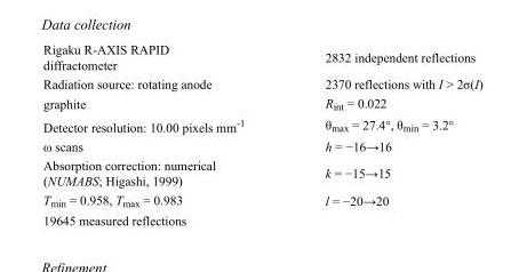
<table><tbody><tr><td>Rigaku R-AXIS RAPID diffractometer</td><td>2832 independent reflections</td></tr><tr><td>Radiation source: rotating anode</td><td>2370 reflections with I &gt; 2σ(I)</td></tr><tr><td>graphite</td><td>R<sub>int</sub> = 0.022</td></tr><tr><td>Detector resolution: 10.00 pixels mm<sup>-1</sup></td><td>θ<sub>max</sub> = 27.4°, θ<sub>min</sub> = 3.2°</td></tr><tr><td>ω scans</td><td>h = −16→16</td></tr><tr><td>Absorption correction: numerical (NUMABS; Higashi, 1999)</td><td>k = −15→15</td></tr><tr><td>T<sub>min</sub> = 0.958, T<sub>max</sub> = 0.983</td><td>l = −20→20</td></tr><tr><td>19645 measured reflections</td><td></td></tr></tbody></table>